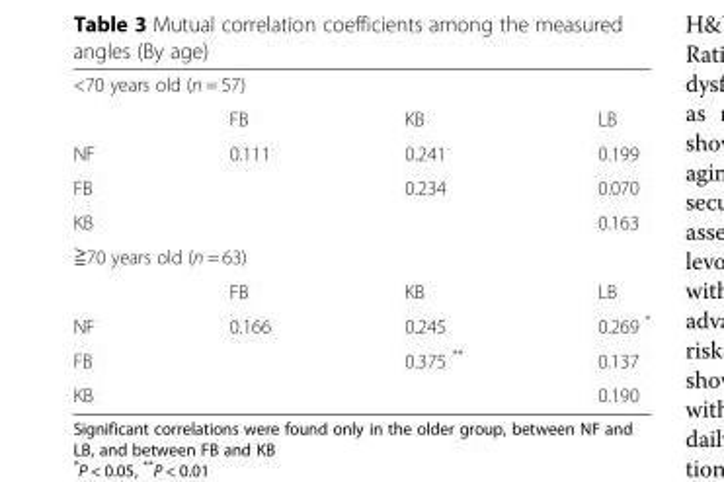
<table><tbody><tr><td colspan="4">&lt;70 years old (n = 57)</td></tr><tr><td></td><td>FB</td><td>KB</td><td>LB</td></tr><tr><td>NF</td><td>0.111</td><td>0.241</td><td>0.199</td></tr><tr><td>FB</td><td></td><td>0.234</td><td>0.070</td></tr><tr><td>KB</td><td></td><td></td><td>0.163</td></tr><tr><td colspan="4">≧70 years old (n = 63)</td></tr><tr><td></td><td>FB</td><td>KB</td><td>LB</td></tr><tr><td>NF</td><td>0.166</td><td>0.245</td><td>0.269 *</td></tr><tr><td>FB</td><td></td><td>0.375 **</td><td>0.137</td></tr><tr><td>KB</td><td></td><td></td><td>0.190</td></tr></tbody></table>